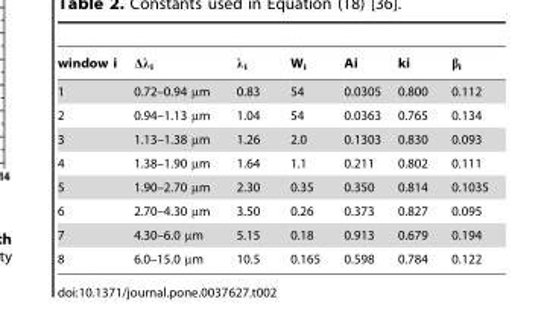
<table><thead><tr><td>window i</td><td>Δλ<sub>i</sub></td><td>λ<sub>i</sub></td><td>W<sub>i</sub></td><td>Ai</td><td>ki</td><td>β<sub>i</sub></td></tr></thead><tbody><tr><td>1</td><td>0.72–0.94 µm</td><td>0.83</td><td>54</td><td>0.0305</td><td>0.800</td><td>0.112</td></tr><tr><td>2</td><td>0.94–1.13 µm</td><td>1.04</td><td>54</td><td>0.0363</td><td>0.765</td><td>0.134</td></tr><tr><td>3</td><td>1.13–1.38 µm</td><td>1.26</td><td>2.0</td><td>0.1303</td><td>0.830</td><td>0.093</td></tr><tr><td>4</td><td>1.38–1.90 µm</td><td>1.64</td><td>1.1</td><td>0.211</td><td>0.802</td><td>0.111</td></tr><tr><td>5</td><td>1.90–2.70 µm</td><td>2.30</td><td>0.35</td><td>0.350</td><td>0.814</td><td>0.1035</td></tr><tr><td>6</td><td>2.70–4.30 µm</td><td>3.50</td><td>0.26</td><td>0.373</td><td>0.827</td><td>0.095</td></tr><tr><td>7</td><td>4.30–6.0 µm</td><td>5.15</td><td>0.18</td><td>0.913</td><td>0.679</td><td>0.194</td></tr><tr><td>8</td><td>6.0–15.0 µm</td><td>10.5</td><td>0.165</td><td>0.598</td><td>0.784</td><td>0.122</td></tr></tbody></table>